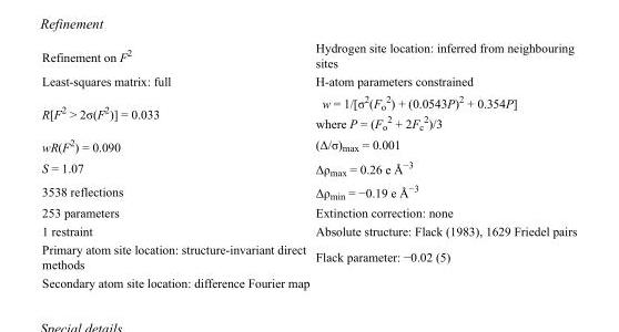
<table><tbody><tr><td>Refinement on F<sup>2</sup></td><td>Hydrogen site location: inferred from neighbouring sites</td></tr><tr><td>Least-squares matrix: full</td><td>H-atom parameters constrained</td></tr><tr><td>R[F<sup>2</sup> &gt; 2σ(F<sup>2</sup>)] = 0.033</td><td>w = 1/[σ<sup>2</sup>(F<sub>o</sub> <sup>2</sup>) + (0.0543P)<sup>2</sup> + 0.354P] where P = (F<sub>o</sub> <sup>2</sup> + 2F<sub>c</sub> <sup>2</sup>)/3</td></tr><tr><td>wR(F<sup>2</sup>) = 0.090</td><td>(Δ/σ)<sub>max</sub> = 0.001</td></tr><tr><td>S = 1.07</td><td>Δρ<sub>max</sub> = 0.26 e Å<sup>−3</sup></td></tr><tr><td>3538 reflections</td><td>Δρ<sub>min</sub> = −0.19 e Å<sup>−3</sup></td></tr><tr><td>253 parameters</td><td>Extinction correction: none</td></tr><tr><td>1 restraint</td><td>Absolute structure: Flack (1983), 1629 Friedel pairs</td></tr><tr><td>Primary atom site location: structure-invariant direct methods</td><td>Flack parameter: −0.02 (5)</td></tr><tr><td>Secondary atom site location: difference Fourier map</td><td></td></tr></tbody></table>